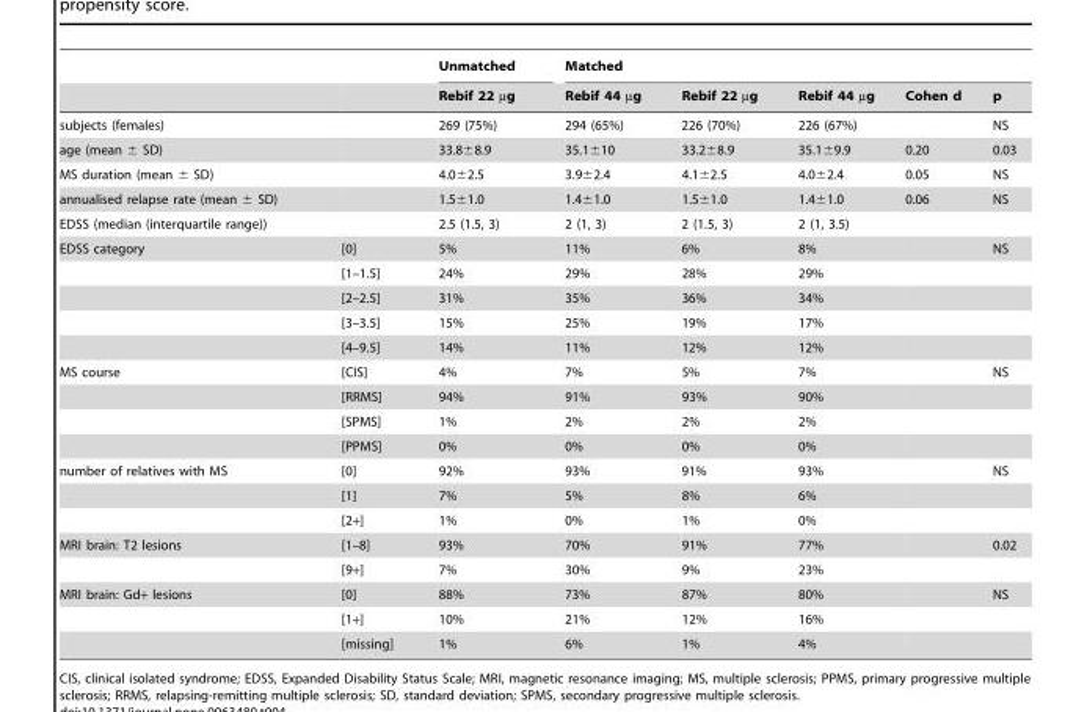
<table><thead><tr><td rowspan="2"></td><td rowspan="2"></td><td rowspan="2">Unmatched Rebif 22 µg</td><td colspan="5">Matched</td></tr><tr><td>Rebif 44 µg</td><td>Rebif 22 µg</td><td>Rebif 44 µg</td><td>Cohen d</td><td>p</td></tr></thead><tbody><tr><td>subjects (females)</td><td></td><td>269 (75%)</td><td>294 (65%)</td><td>226 (70%)</td><td>226 (67%)</td><td></td><td>NS</td></tr><tr><td>age (mean ± SD)</td><td></td><td>33.8±8.9</td><td>35.1±10</td><td>33.2±8.9</td><td>35.1±9.9</td><td>0.20</td><td>0.03</td></tr><tr><td>MS duration (mean ± SD)</td><td></td><td>4.0±2.5</td><td>3.9±2.4</td><td>4.1±2.5</td><td>4.0±2.4</td><td>0.05</td><td>NS</td></tr><tr><td>annualised relapse rate (mean ± SD)</td><td></td><td>1.5±1.0</td><td>1.4±1.0</td><td>1.5±1.0</td><td>1.4±1.0</td><td>0.06</td><td>NS</td></tr><tr><td>EDSS (median (interquartile range))</td><td></td><td>2.5 (1.5, 3)</td><td>2 (1, 3)</td><td>2 (1.5, 3)</td><td>2 (1, 3.5)</td><td></td><td></td></tr><tr><td rowspan="5">EDSS category</td><td>[0]</td><td>5%</td><td>11%</td><td>6%</td><td>8%</td><td></td><td>NS</td></tr><tr><td>[1–1.5]</td><td>24%</td><td>29%</td><td>28%</td><td>29%</td><td></td><td></td></tr><tr><td>[2–2.5]</td><td>31%</td><td>35%</td><td>36%</td><td>34%</td><td></td><td></td></tr><tr><td>[3–3.5]</td><td>15%</td><td>25%</td><td>19%</td><td>17%</td><td></td><td></td></tr><tr><td>[4–9.5]</td><td>14%</td><td>11%</td><td>12%</td><td>12%</td><td></td><td></td></tr><tr><td rowspan="4">MS course</td><td>[CIS]</td><td>4%</td><td>7%</td><td>5%</td><td>7%</td><td></td><td>NS</td></tr><tr><td>[RRMS]</td><td>94%</td><td>91%</td><td>93%</td><td>90%</td><td></td><td></td></tr><tr><td>[SPMS]</td><td>1%</td><td>2%</td><td>2%</td><td>2%</td><td></td><td></td></tr><tr><td>[PPMS]</td><td>0%</td><td>0%</td><td>0%</td><td>0%</td><td></td><td></td></tr><tr><td rowspan="3">number of relatives with MS</td><td>[0]</td><td>92%</td><td>93%</td><td>91%</td><td>93%</td><td></td><td>NS</td></tr><tr><td>[1]</td><td>7%</td><td>5%</td><td>8%</td><td>6%</td><td></td><td></td></tr><tr><td>[2+]</td><td>1%</td><td>0%</td><td>1%</td><td>0%</td><td></td><td></td></tr><tr><td rowspan="2">MRI brain: T2 lesions</td><td>[1–8]</td><td>93%</td><td>70%</td><td>91%</td><td>77%</td><td></td><td>0.02</td></tr><tr><td>[9+]</td><td>7%</td><td>30%</td><td>9%</td><td>23%</td><td></td><td></td></tr><tr><td rowspan="3">MRI brain: Gd+ lesions</td><td>[0]</td><td>88%</td><td>73%</td><td>87%</td><td>80%</td><td></td><td>NS</td></tr><tr><td>[1+]</td><td>10%</td><td>21%</td><td>12%</td><td>16%</td><td></td><td></td></tr><tr><td>[missing]</td><td>1%</td><td>6%</td><td>1%</td><td>4%</td><td></td><td></td></tr></tbody></table>